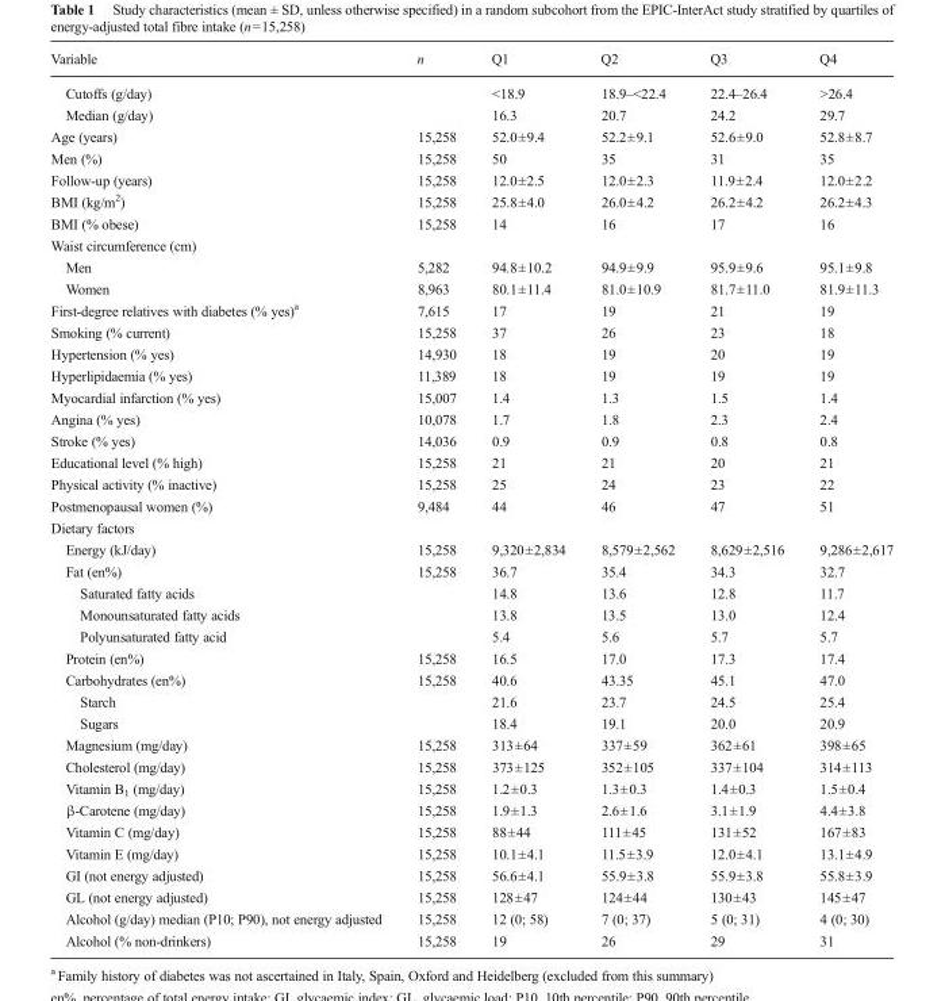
<table><thead><tr><td>Variable</td><td>n</td><td>Q1</td><td>Q2</td><td>Q3</td><td>Q4</td></tr></thead><tbody><tr><td>Cutoffs (g/day)</td><td></td><td>&lt;18.9</td><td>18.9–&lt;22.4</td><td>22.4–26.4</td><td>&gt;26.4</td></tr><tr><td>Median (g/day)</td><td></td><td>16.3</td><td>20.7</td><td>24.2</td><td>29.7</td></tr><tr><td>Age (years)</td><td>15,258</td><td>52.0±9.4</td><td>52.2±9.1</td><td>52.6±9.0</td><td>52.8±8.7</td></tr><tr><td>Men (%)</td><td>15,258</td><td>50</td><td>35</td><td>31</td><td>35</td></tr><tr><td>Follow-up (years)</td><td>15,258</td><td>12.0±2.5</td><td>12.0±2.3</td><td>11.9±2.4</td><td>12.0±2.2</td></tr><tr><td>BMI (kg/m<sup>2</sup>)</td><td>15,258</td><td>25.8±4.0</td><td>26.0±4.2</td><td>26.2±4.2</td><td>26.2±4.3</td></tr><tr><td>BMI (% obese)</td><td>15,258</td><td>14</td><td>16</td><td>17</td><td>16</td></tr><tr><td colspan="6">Waist circumference (cm)</td></tr><tr><td>Men</td><td>5,282</td><td>94.8±10.2</td><td>94.9±9.9</td><td>95.9±9.6</td><td>95.1±9.8</td></tr><tr><td>Women</td><td>8,963</td><td>80.1±11.4</td><td>81.0±10.9</td><td>81.7±11.0</td><td>81.9±11.3</td></tr><tr><td>First-degree relatives with diabetes (% yes)<sup>a</sup></td><td>7,615</td><td>17</td><td>19</td><td>21</td><td>19</td></tr><tr><td>Smoking (% current)</td><td>15,258</td><td>37</td><td>26</td><td>23</td><td>18</td></tr><tr><td>Hypertension (% yes)</td><td>14,930</td><td>18</td><td>19</td><td>20</td><td>19</td></tr><tr><td>Hyperlipidaemia (% yes)</td><td>11,389</td><td>18</td><td>19</td><td>19</td><td>19</td></tr><tr><td>Myocardial infarction (% yes)</td><td>15,007</td><td>1.4</td><td>1.3</td><td>1.5</td><td>1.4</td></tr><tr><td>Angina (% yes)</td><td>10,078</td><td>1.7</td><td>1.8</td><td>2.3</td><td>2.4</td></tr><tr><td>Stroke (% yes)</td><td>14,036</td><td>0.9</td><td>0.9</td><td>0.8</td><td>0.8</td></tr><tr><td>Educational level (% high)</td><td>15,258</td><td>21</td><td>21</td><td>20</td><td>21</td></tr><tr><td>Physical activity (% inactive)</td><td>15,258</td><td>25</td><td>24</td><td>23</td><td>22</td></tr><tr><td>Postmenopausal women (%)</td><td>9,484</td><td>44</td><td>46</td><td>47</td><td>51</td></tr><tr><td colspan="6">Dietary factors</td></tr><tr><td>Energy (kJ/day)</td><td>15,258</td><td>9,320±2,834</td><td>8,579±2,562</td><td>8,629±2,516</td><td>9,286±2,617</td></tr><tr><td>Fat (en%)</td><td>15,258</td><td>36.7</td><td>35.4</td><td>34.3</td><td>32.7</td></tr><tr><td>Saturated fatty acids</td><td></td><td>14.8</td><td>13.6</td><td>12.8</td><td>11.7</td></tr><tr><td>Monounsaturated fatty acids</td><td></td><td>13.8</td><td>13.5</td><td>13.0</td><td>12.4</td></tr><tr><td>Polyunsaturated fatty acid</td><td></td><td>5.4</td><td>5.6</td><td>5.7</td><td>5.7</td></tr><tr><td>Protein (en%)</td><td>15,258</td><td>16.5</td><td>17.0</td><td>17.3</td><td>17.4</td></tr><tr><td>Carbohydrates (en%)</td><td>15,258</td><td>40.6</td><td>43.35</td><td>45.1</td><td>47.0</td></tr><tr><td>Starch</td><td></td><td>21.6</td><td>23.7</td><td>24.5</td><td>25.4</td></tr><tr><td>Sugars</td><td></td><td>18.4</td><td>19.1</td><td>20.0</td><td>20.9</td></tr><tr><td>Magnesium (mg/day)</td><td>15,258</td><td>313±64</td><td>337±59</td><td>362±61</td><td>398±65</td></tr><tr><td>Cholesterol (mg/day)</td><td>15,258</td><td>373±125</td><td>352±105</td><td>337±104</td><td>314±113</td></tr><tr><td>Vitamin B<sub>1</sub> (mg/day)</td><td>15,258</td><td>1.2±0.3</td><td>1.3±0.3</td><td>1.4±0.3</td><td>1.5±0.4</td></tr><tr><td>β-Carotene (mg/day)</td><td>15,258</td><td>1.9±1.3</td><td>2.6±1.6</td><td>3.1±1.9</td><td>4.4±3.8</td></tr><tr><td>Vitamin C (mg/day)</td><td>15,258</td><td>88±44</td><td>111±45</td><td>131±52</td><td>167±83</td></tr><tr><td>Vitamin E (mg/day)</td><td>15,258</td><td>10.1±4.1</td><td>11.5±3.9</td><td>12.0±4.1</td><td>13.1±4.9</td></tr><tr><td>GI (not energy adjusted)</td><td>15,258</td><td>56.6±4.1</td><td>55.9±3.8</td><td>55.9±3.8</td><td>55.8±3.9</td></tr><tr><td>GL (not energy adjusted)</td><td>15,258</td><td>128±47</td><td>124±44</td><td>130±43</td><td>145±47</td></tr><tr><td>Alcohol (g/day) median (P10; P90), not energy adjusted</td><td>15,258</td><td>12 (0; 58)</td><td>7 (0; 37)</td><td>5 (0; 31)</td><td>4 (0; 30)</td></tr><tr><td>Alcohol (% non-drinkers)</td><td>15,258</td><td>19</td><td>26</td><td>29</td><td>31</td></tr></tbody></table>